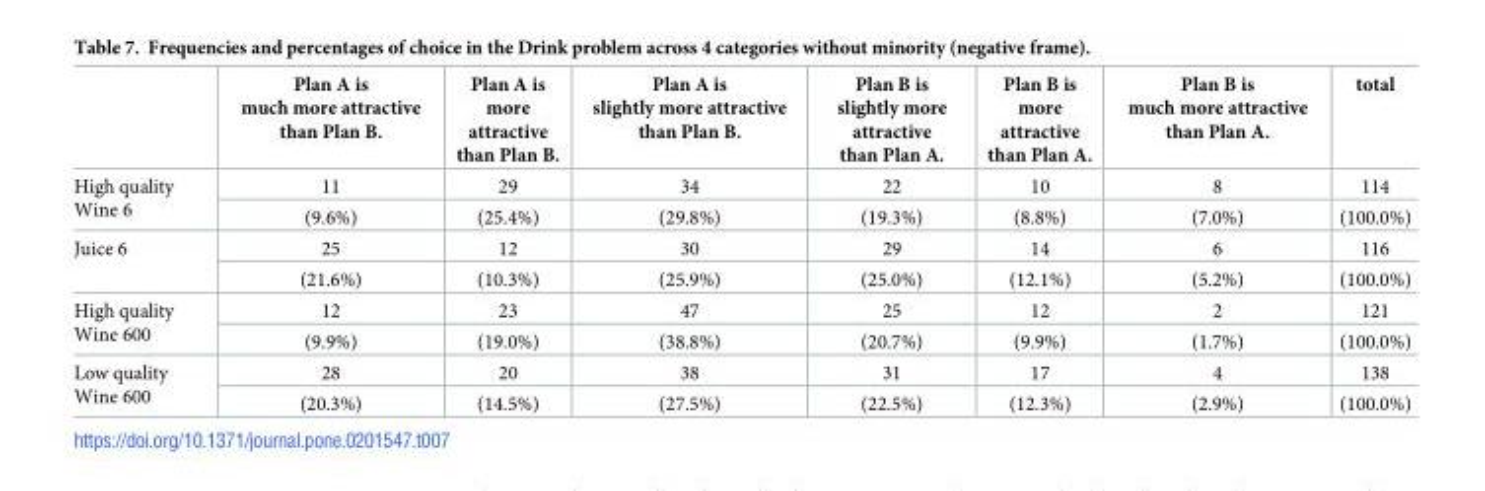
<table><thead><tr><td></td><td>Plan A is much more attractive than Plan B.</td><td>Plan A is more attractive than Plan B.</td><td>Plan A is slightly more attractive than Plan B.</td><td>Plan B is slightly more attractive than Plan A.</td><td>Plan B is more attractive than Plan A.</td><td>Plan B is much more attractive than Plan A.</td><td>total</td></tr></thead><tbody><tr><td rowspan="2">High quality Wine 6</td><td>11</td><td>29</td><td>34</td><td>22</td><td>10</td><td>8</td><td>114</td></tr><tr><td>(9.6%)</td><td>(25.4%)</td><td>(29.8%)</td><td>(19.3%)</td><td>(8.8%)</td><td>(7.0%)</td><td>(100.0%)</td></tr><tr><td rowspan="2">Juice 6</td><td>25</td><td>12</td><td>30</td><td>29</td><td>14</td><td>6</td><td>116</td></tr><tr><td>(21.6%)</td><td>(10.3%)</td><td>(25.9%)</td><td>(25.0%)</td><td>(12.1%)</td><td>(5.2%)</td><td>(100.0%)</td></tr><tr><td rowspan="2">High quality Wine 600</td><td>12</td><td>23</td><td>47</td><td>25</td><td>12</td><td>2</td><td>121</td></tr><tr><td>(9.9%)</td><td>(19.0%)</td><td>(38.8%)</td><td>(20.7%)</td><td>(9.9%)</td><td>(1.7%)</td><td>(100.0%)</td></tr><tr><td rowspan="2">Low quality Wine 600</td><td>28</td><td>20</td><td>38</td><td>31</td><td>17</td><td>4</td><td>138</td></tr><tr><td>(20.3%)</td><td>(14.5%)</td><td>(27.5%)</td><td>(22.5%)</td><td>(12.3%)</td><td>(2.9%)</td><td>(100.0%)</td></tr></tbody></table>